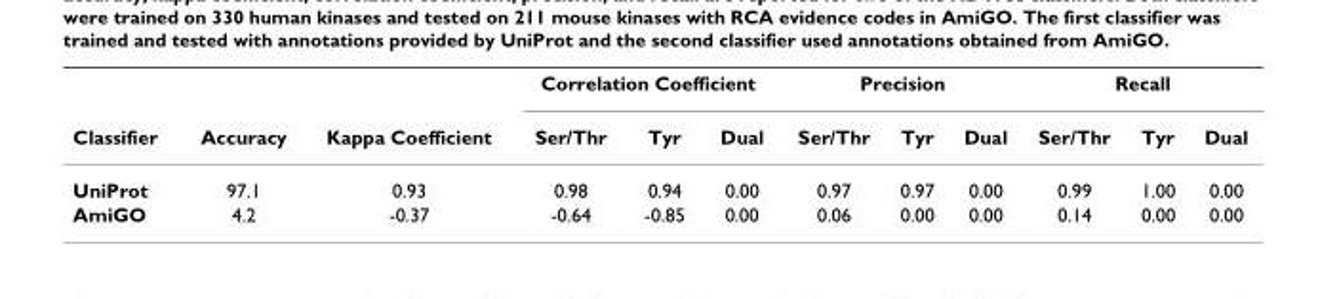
<table><thead><tr><td rowspan="2">Classifier</td><td rowspan="2">Accuracy</td><td rowspan="2">Kappa Coefficient</td><td colspan="3">Correlation Coefficient</td><td colspan="3">Precision</td><td colspan="3">Recall</td></tr><tr><td>Ser/Thr</td><td>Tyr</td><td>Dual</td><td>Ser/Thr</td><td>Tyr</td><td>Dual</td><td>Ser/Thr</td><td>Tyr</td><td>Dual</td></tr></thead><tbody><tr><td>UniProt</td><td>97.1</td><td>0.93</td><td>0.98</td><td>0.94</td><td>0.00</td><td>0.97</td><td>0.97</td><td>0.00</td><td>0.99</td><td>1.00</td><td>0.00</td></tr><tr><td>AmiGO</td><td>4.2</td><td>-0.37</td><td>-0.64</td><td>-0.85</td><td>0.00</td><td>0.06</td><td>0.00</td><td>0.00</td><td>0.14</td><td>0.00</td><td>0.00</td></tr></tbody></table>